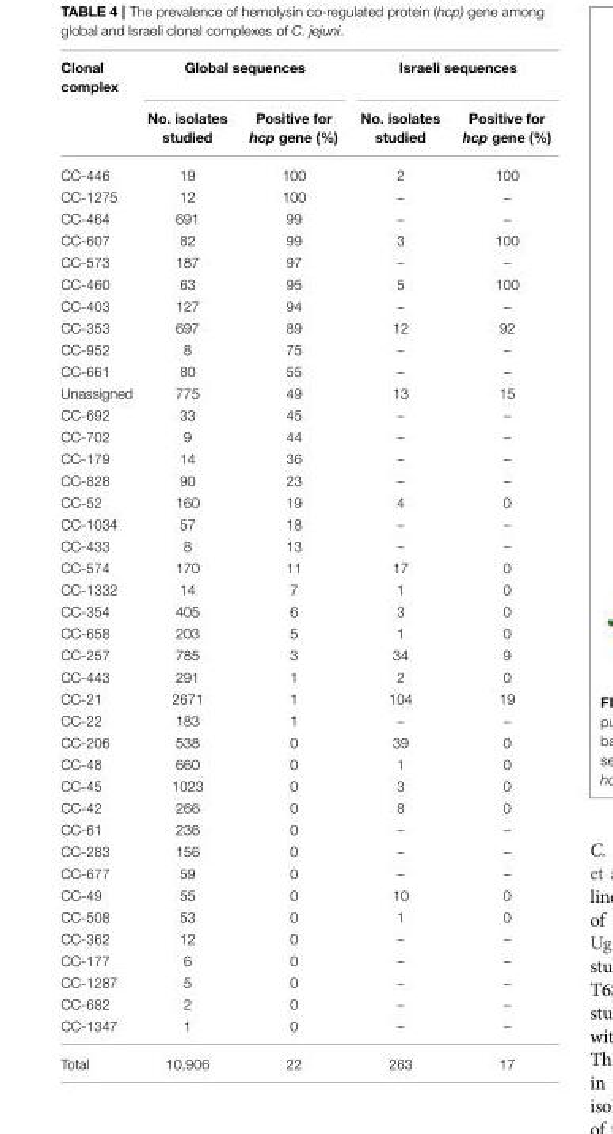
<table><thead><tr><td rowspan="2">Clonal complex</td><td colspan="2">Global sequences</td><td colspan="2">Israeli sequences</td></tr><tr><td>No. isolates studied</td><td>Positive for hcp gene (%)</td><td>No. isolates studied</td><td>Positive for hcp gene (%)</td></tr></thead><tbody><tr><td>CC-446</td><td>19</td><td>100</td><td>2</td><td>100</td></tr><tr><td>CC-1275</td><td>12</td><td>100</td><td>–</td><td>–</td></tr><tr><td>CC-464</td><td>691</td><td>99</td><td>–</td><td>–</td></tr><tr><td>CC-607</td><td>82</td><td>99</td><td>3</td><td>100</td></tr><tr><td>CC-573</td><td>187</td><td>97</td><td>–</td><td>–</td></tr><tr><td>CC-460</td><td>63</td><td>95</td><td>5</td><td>100</td></tr><tr><td>CC-403</td><td>127</td><td>94</td><td>–</td><td>–</td></tr><tr><td>CC-353</td><td>697</td><td>89</td><td>12</td><td>92</td></tr><tr><td>CC-952</td><td>8</td><td>75</td><td>–</td><td>–</td></tr><tr><td>CC-661</td><td>80</td><td>55</td><td>–</td><td>–</td></tr><tr><td>Unassigned</td><td>775</td><td>49</td><td>13</td><td>15</td></tr><tr><td>CC-692</td><td>33</td><td>45</td><td>–</td><td>–</td></tr><tr><td>CC-702</td><td>9</td><td>44</td><td>–</td><td>–</td></tr><tr><td>CC-179</td><td>14</td><td>36</td><td>–</td><td>–</td></tr><tr><td>CC-828</td><td>90</td><td>23</td><td>–</td><td>–</td></tr><tr><td>CC-52</td><td>160</td><td>19</td><td>4</td><td>0</td></tr><tr><td>CC-1034</td><td>57</td><td>18</td><td>–</td><td>–</td></tr><tr><td>CC-433</td><td>8</td><td>13</td><td>–</td><td>–</td></tr><tr><td>CC-574</td><td>170</td><td>11</td><td>17</td><td>0</td></tr><tr><td>CC-1332</td><td>14</td><td>7</td><td>1</td><td>0</td></tr><tr><td>CC-354</td><td>405</td><td>6</td><td>3</td><td>0</td></tr><tr><td>CC-658</td><td>203</td><td>5</td><td>1</td><td>0</td></tr><tr><td>CC-257</td><td>785</td><td>3</td><td>34</td><td>9</td></tr><tr><td>CC-443</td><td>291</td><td>1</td><td>2</td><td>0</td></tr><tr><td>CC-21</td><td>2671</td><td>1</td><td>104</td><td>19</td></tr><tr><td>CC-22</td><td>183</td><td>1</td><td>–</td><td>–</td></tr><tr><td>CC-206</td><td>538</td><td>0</td><td>39</td><td>0</td></tr><tr><td>CC-48</td><td>660</td><td>0</td><td>1</td><td>0</td></tr><tr><td>CC-45</td><td>1023</td><td>0</td><td>3</td><td>0</td></tr><tr><td>CC-42</td><td>266</td><td>0</td><td>8</td><td>0</td></tr><tr><td>CC-61</td><td>236</td><td>0</td><td>–</td><td>–</td></tr><tr><td>CC-283</td><td>156</td><td>0</td><td>–</td><td>–</td></tr><tr><td>CC-677</td><td>59</td><td>0</td><td>–</td><td>–</td></tr><tr><td>CC-49</td><td>55</td><td>0</td><td>10</td><td>0</td></tr><tr><td>CC-508</td><td>53</td><td>0</td><td>1</td><td>0</td></tr><tr><td>CC-362</td><td>12</td><td>0</td><td>–</td><td>–</td></tr><tr><td>CC-177</td><td>6</td><td>0</td><td>–</td><td>–</td></tr><tr><td>CC-1287</td><td>5</td><td>0</td><td>–</td><td>–</td></tr><tr><td>CC-682</td><td>2</td><td>0</td><td>–</td><td>–</td></tr><tr><td>CC-1347</td><td>1</td><td>0</td><td>–</td><td>–</td></tr><tr><td>Total</td><td>10,906</td><td>22</td><td>263</td><td>17</td></tr></tbody></table>